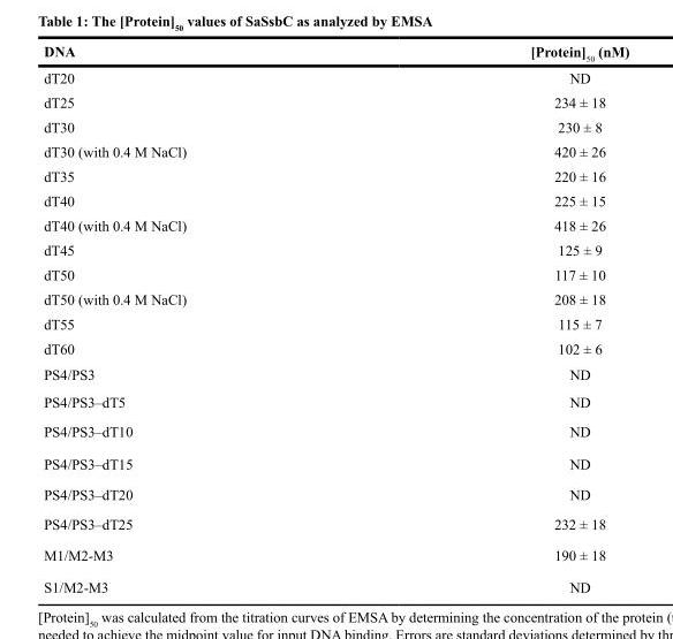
<table><thead><tr><td>DNA</td><td>[Protein]<sub>50</sub> (nM)</td></tr></thead><tbody><tr><td>dT20</td><td>ND</td></tr><tr><td>dT25</td><td>234 ± 18</td></tr><tr><td>dT30</td><td>230 ± 8</td></tr><tr><td>dT30 (with 0.4 M NaCl)</td><td>420 ± 26</td></tr><tr><td>dT35</td><td>220 ± 16</td></tr><tr><td>dT40</td><td>225 ± 15</td></tr><tr><td>dT40 (with 0.4 M NaCl)</td><td>418 ± 26</td></tr><tr><td>dT45</td><td>125 ± 9</td></tr><tr><td>dT50</td><td>117 ± 10</td></tr><tr><td>dT50 (with 0.4 M NaCl)</td><td>208 ± 18</td></tr><tr><td>dT55</td><td>115 ± 7</td></tr><tr><td>dT60</td><td>102 ± 6</td></tr><tr><td>PS4/PS3</td><td>ND</td></tr><tr><td>PS4/PS3–dT5</td><td>ND</td></tr><tr><td>PS4/PS3–dT10</td><td>ND</td></tr><tr><td>PS4/PS3–dT15</td><td>ND</td></tr><tr><td>PS4/PS3–dT20</td><td>ND</td></tr><tr><td>PS4/PS3–dT25</td><td>232 ± 18</td></tr><tr><td>M1/M2-M3</td><td>190 ± 18</td></tr><tr><td>S1/M2-M3</td><td>ND</td></tr></tbody></table>